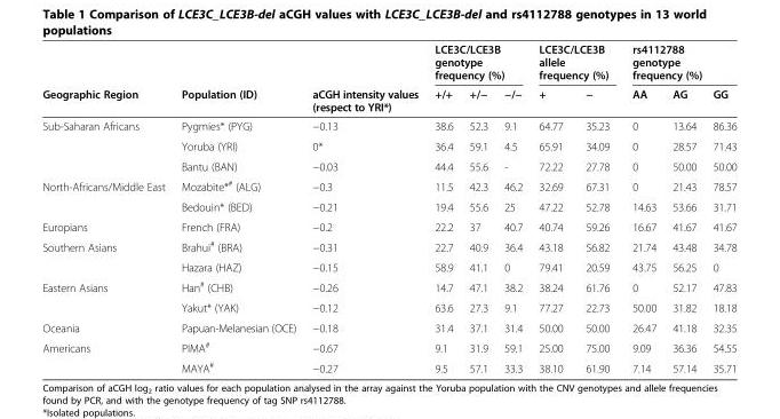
<table><thead><tr><td rowspan="2">Geographic Region</td><td rowspan="2">Population (ID)</td><td rowspan="2">aCGH intensity values (respect to YRI*)</td><td colspan="3">LCE3C/LCE3B genotype frequency (%)</td><td colspan="2">LCE3C/LCE3B allele frequency (%)</td><td colspan="3">rs4112788 genotype frequency (%)</td></tr><tr><td>+/+</td><td>+/−</td><td>−/−</td><td>+</td><td>−</td><td>AA</td><td>AG</td><td>GG</td></tr></thead><tbody><tr><td rowspan="3">Sub-Saharan Africans</td><td>Pygmies* (PYG)</td><td>−0.13</td><td>38.6</td><td>52.3</td><td>9.1</td><td>64.77</td><td>35.23</td><td>0</td><td>13.64</td><td>86.36</td></tr><tr><td>Yoruba (YRI)</td><td>0*</td><td>36.4</td><td>59.1</td><td>4.5</td><td>65.91</td><td>34.09</td><td>0</td><td>28.57</td><td>71.43</td></tr><tr><td>Bantu (BAN)</td><td>−0.03</td><td>44.4</td><td>55.6</td><td>-</td><td>72.22</td><td>27.78</td><td>0</td><td>50.00</td><td>50.00</td></tr><tr><td rowspan="2">North-Africans/Middle East</td><td>Mozabite*<sup>#</sup> (ALG)</td><td>−0.3</td><td>11.5</td><td>42.3</td><td>46.2</td><td>32.69</td><td>67.31</td><td>0</td><td>21.43</td><td>78.57</td></tr><tr><td>Bedouin* (BED)</td><td>−0.21</td><td>19.4</td><td>55.6</td><td>25</td><td>47.22</td><td>52.78</td><td>14.63</td><td>53.66</td><td>31.71</td></tr><tr><td>Europians</td><td>French (FRA)</td><td>−0.2</td><td>22.2</td><td>37</td><td>40.7</td><td>40.74</td><td>59.26</td><td>16.67</td><td>41.67</td><td>41.67</td></tr><tr><td rowspan="2">Southern Asians</td><td>Brahui<sup>#</sup> (BRA)</td><td>−0.31</td><td>22.7</td><td>40.9</td><td>36.4</td><td>43.18</td><td>56.82</td><td>21.74</td><td>43.48</td><td>34.78</td></tr><tr><td>Hazara (HAZ)</td><td>−0.15</td><td>58.9</td><td>41.1</td><td>0</td><td>79.41</td><td>20.59</td><td>43.75</td><td>56.25</td><td>0</td></tr><tr><td rowspan="2">Eastern Asians</td><td>Han<sup>#</sup> (CHB)</td><td>−0.26</td><td>14.7</td><td>47.1</td><td>38.2</td><td>38.24</td><td>61.76</td><td>0</td><td>52.17</td><td>47.83</td></tr><tr><td>Yakut* (YAK)</td><td>−0.12</td><td>63.6</td><td>27.3</td><td>9.1</td><td>77.27</td><td>22.73</td><td>50.00</td><td>31.82</td><td>18.18</td></tr><tr><td>Oceania</td><td>Papuan-Melanesian (OCE)</td><td>−0.18</td><td>31.4</td><td>37.1</td><td>31.4</td><td>50.00</td><td>50.00</td><td>26.47</td><td>41.18</td><td>32.35</td></tr><tr><td rowspan="2">Americans</td><td>PIMA<sup>#</sup></td><td>−0.67</td><td>9.1</td><td>31.9</td><td>59.1</td><td>25.00</td><td>75.00</td><td>9.09</td><td>36.36</td><td>54.55</td></tr><tr><td>MAYA<sup>#</sup></td><td>−0.27</td><td>9.5</td><td>57.1</td><td>33.3</td><td>38.10</td><td>61.90</td><td>7.14</td><td>57.14</td><td>35.71</td></tr></tbody></table>